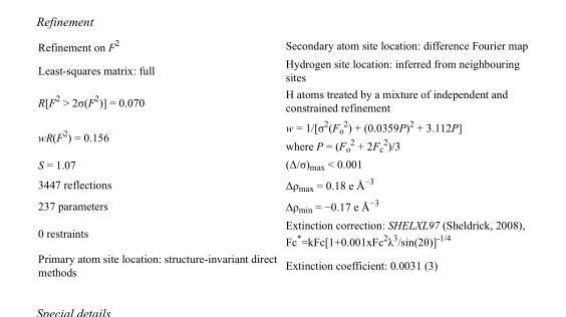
<table><tbody><tr><td>Refinement on F<sup>2</sup></td><td>Secondary atom site location: difference Fourier map</td></tr><tr><td>Least-squares matrix: full</td><td>Hydrogen site location: inferred from neighbouring sites</td></tr><tr><td>R[F<sup>2</sup> &gt; 2σ(F<sup>2</sup>)] = 0.070</td><td>H atoms treated by a mixture of independent and constrained refinement</td></tr><tr><td>wR(F<sup>2</sup>) = 0.156</td><td>w = 1/[σ<sup>2</sup>(F<sub>o</sub> <sup>2</sup>) + (0.0359P)<sup>2</sup> + 3.112P] where P = (F<sub>o</sub> <sup>2</sup> + 2F<sub>c</sub> <sup>2</sup>)/3</td></tr><tr><td>S = 1.07</td><td>(Δ/σ)<sub>max</sub> &lt; 0.001</td></tr><tr><td>3447 reflections</td><td>Δρ<sub>max</sub> = 0.18 e Å<sup>−3</sup></td></tr><tr><td>237 parameters</td><td>Δρ<sub>min</sub> = −0.17 e Å<sup>−3</sup></td></tr><tr><td>0 restraints</td><td>Extinction correction: SHELXL97 (Sheldrick, 2008), Fc*=kFc[1+0.001xFc<sup>2</sup>λ<sup>3</sup>/sin(2θ)]<sup>-1/4</sup></td></tr><tr><td>Primary atom site location: structure-invariant direct methods</td><td>Extinction coefficient: 0.0031 (3)</td></tr></tbody></table>